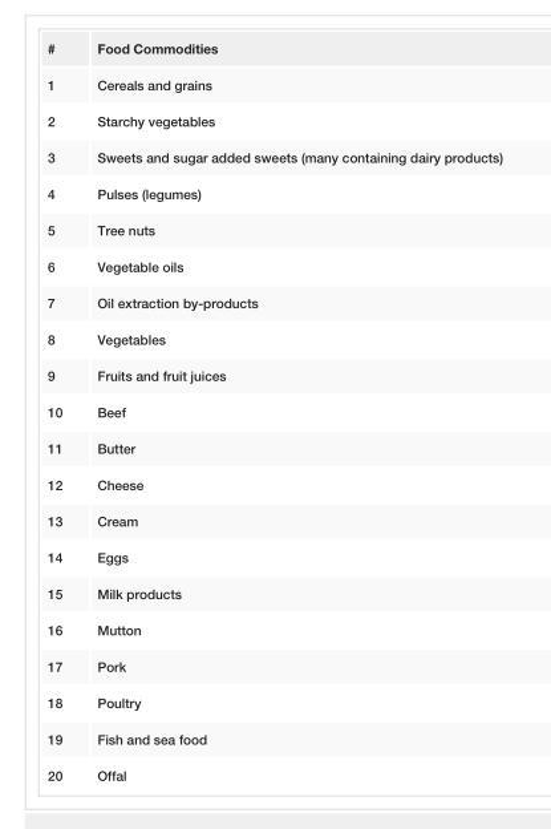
<table><tbody><tr><td>#</td><td>Food Commodities</td></tr><tr><td>1</td><td>Cereals and grains</td></tr><tr><td>2</td><td>Starchy vegetables</td></tr><tr><td>3</td><td>Sweets and sugar added sweets (many containing dairy products)</td></tr><tr><td>4</td><td>Pulses (legumes)</td></tr><tr><td>5</td><td>Tree nuts</td></tr><tr><td>6</td><td>Vegetable oils</td></tr><tr><td>7</td><td>Oil extraction by-products</td></tr><tr><td>8</td><td>Vegetables</td></tr><tr><td>9</td><td>Fruits and fruit juices</td></tr><tr><td>10</td><td>Beef</td></tr><tr><td>11</td><td>Butter</td></tr><tr><td>12</td><td>Cheese</td></tr><tr><td>13</td><td>Cream</td></tr><tr><td>14</td><td>Eggs</td></tr><tr><td>15</td><td>Milk products</td></tr><tr><td>16</td><td>Mutton</td></tr><tr><td>17</td><td>Pork</td></tr><tr><td>18</td><td>Poultry</td></tr><tr><td>19</td><td>Fish and sea food</td></tr><tr><td>20</td><td>Offal</td></tr></tbody></table>